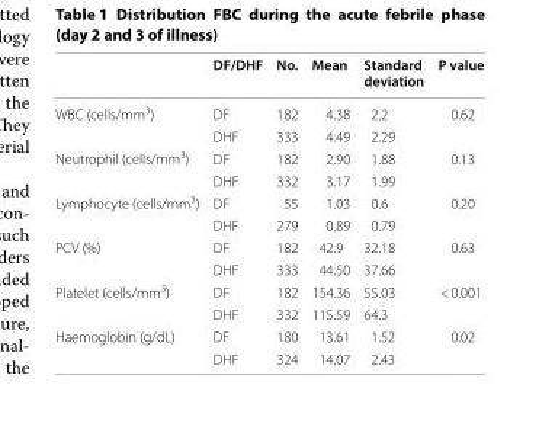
<table><thead><tr><td></td><td>DF/DHF</td><td>No.</td><td>Mean</td><td>Standard deviation</td><td>P value</td></tr></thead><tbody><tr><td rowspan="2">WBC (cells/mm<sup>3</sup>)</td><td>DF</td><td>182</td><td>4.38</td><td>2.2</td><td>0.62</td></tr><tr><td>DHF</td><td>333</td><td>4.49</td><td>2.29</td><td></td></tr><tr><td rowspan="2">Neutrophil (cells/mm<sup>3</sup>)</td><td>DF</td><td>182</td><td>2.90</td><td>1.88</td><td>0.13</td></tr><tr><td>DHF</td><td>332</td><td>3.17</td><td>1.99</td><td></td></tr><tr><td rowspan="2">Lymphocyte (cells/mm<sup>3</sup>)</td><td>DF</td><td>55</td><td>1.03</td><td>0.6</td><td>0.20</td></tr><tr><td>DHF</td><td>279</td><td>0.89</td><td>0.79</td><td></td></tr><tr><td rowspan="2">PCV (%)</td><td>DF</td><td>182</td><td>42.9</td><td>32.18</td><td>0.63</td></tr><tr><td>DHF</td><td>333</td><td>44.50</td><td>37.66</td><td></td></tr><tr><td rowspan="2">Platelet (cells/mm<sup>3</sup>)</td><td>DF</td><td>182</td><td>154.36</td><td>55.03</td><td>&lt; 0.001</td></tr><tr><td>DHF</td><td>332</td><td>115.59</td><td>64.3</td><td></td></tr><tr><td rowspan="2">Haemoglobin (g/dL)</td><td>DF</td><td>180</td><td>13.61</td><td>1.52</td><td>0.02</td></tr><tr><td>DHF</td><td>324</td><td>14.07</td><td>2.43</td><td></td></tr></tbody></table>